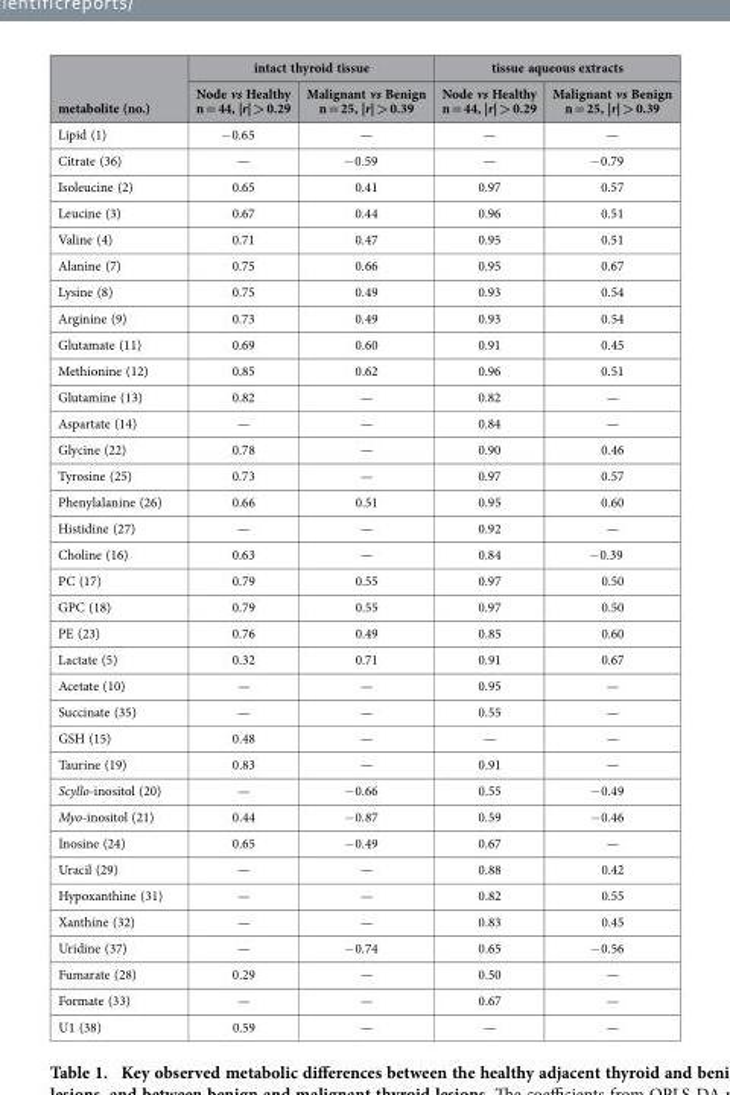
<table><thead><tr><td rowspan="2">metabolite (no.)</td><td colspan="2">intact thyroid tissue</td><td colspan="2">tissue aqueous extracts</td></tr><tr><td>Node vs Healthy n = 44, |r| &gt; 0.29</td><td>Malignant vs Benign n = 25, |r| &gt; 0.39</td><td>Node vs Healthy n = 44, |r| &gt; 0.29</td><td>Malignant vs Benign n = 25, |r| &gt; 0.39</td></tr></thead><tbody><tr><td>Lipid (1)</td><td>− 0.65</td><td>—</td><td>—</td><td>—</td></tr><tr><td>Citrate (36)</td><td>—</td><td>− 0.59</td><td>—</td><td>− 0.79</td></tr><tr><td>Isoleucine (2)</td><td>0.65</td><td>0.41</td><td>0.97</td><td>0.57</td></tr><tr><td>Leucine (3)</td><td>0.67</td><td>0.44</td><td>0.96</td><td>0.51</td></tr><tr><td>Valine (4)</td><td>0.71</td><td>0.47</td><td>0.95</td><td>0.51</td></tr><tr><td>Alanine (7)</td><td>0.75</td><td>0.66</td><td>0.95</td><td>0.67</td></tr><tr><td>Lysine (8)</td><td>0.75</td><td>0.49</td><td>0.93</td><td>0.54</td></tr><tr><td>Arginine (9)</td><td>0.73</td><td>0.49</td><td>0.93</td><td>0.54</td></tr><tr><td>Glutamate (11)</td><td>0.69</td><td>0.60</td><td>0.91</td><td>0.45</td></tr><tr><td>Methionine (12)</td><td>0.85</td><td>0.62</td><td>0.96</td><td>0.51</td></tr><tr><td>Glutamine (13)</td><td>0.82</td><td>—</td><td>0.82</td><td>—</td></tr><tr><td>Aspartate (14)</td><td>—</td><td>—</td><td>0.84</td><td>—</td></tr><tr><td>Glycine (22)</td><td>0.78</td><td>—</td><td>0.90</td><td>0.46</td></tr><tr><td>Tyrosine (25)</td><td>0.73</td><td>—</td><td>0.97</td><td>0.57</td></tr><tr><td>Phenylalanine (26)</td><td>0.66</td><td>0.51</td><td>0.95</td><td>0.60</td></tr><tr><td>Histidine (27)</td><td>—</td><td>—</td><td>0.92</td><td>—</td></tr><tr><td>Choline (16)</td><td>0.63</td><td>—</td><td>0.84</td><td>− 0.39</td></tr><tr><td>PC (17)</td><td>0.79</td><td>0.55</td><td>0.97</td><td>0.50</td></tr><tr><td>GPC (18)</td><td>0.79</td><td>0.55</td><td>0.97</td><td>0.50</td></tr><tr><td>PE (23)</td><td>0.76</td><td>0.49</td><td>0.85</td><td>0.60</td></tr><tr><td>Lactate (5)</td><td>0.32</td><td>0.71</td><td>0.91</td><td>0.67</td></tr><tr><td>Acetate (10)</td><td>—</td><td>—</td><td>0.95</td><td>—</td></tr><tr><td>Succinate (35)</td><td>—</td><td>—</td><td>0.55</td><td>—</td></tr><tr><td>GSH (15)</td><td>0.48</td><td>—</td><td>—</td><td>—</td></tr><tr><td>Taurine (19)</td><td>0.83</td><td>—</td><td>0.91</td><td>—</td></tr><tr><td>Scyllo-inositol (20)</td><td>—</td><td>− 0.66</td><td>0.55</td><td>− 0.49</td></tr><tr><td>Myo-inositol (21)</td><td>0.44</td><td>− 0.87</td><td>0.59</td><td>− 0.46</td></tr><tr><td>Inosine (24)</td><td>0.65</td><td>− 0.49</td><td>0.67</td><td>—</td></tr><tr><td>Uracil (29)</td><td>—</td><td>—</td><td>0.88</td><td>0.42</td></tr><tr><td>Hypoxanthine (31)</td><td>—</td><td>—</td><td>0.82</td><td>0.55</td></tr><tr><td>Xanthine (32)</td><td>—</td><td>—</td><td>0.83</td><td>0.45</td></tr><tr><td>Uridine (37)</td><td>—</td><td>− 0.74</td><td>0.65</td><td>− 0.56</td></tr><tr><td>Fumarate (28)</td><td>0.29</td><td>—</td><td>0.50</td><td>—</td></tr><tr><td>Formate (33)</td><td>—</td><td>—</td><td>0.67</td><td>—</td></tr><tr><td>U1 (38)</td><td>0.59</td><td>—</td><td>—</td><td>—</td></tr></tbody></table>